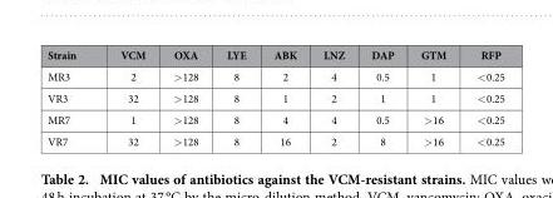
<table><thead><tr><td>Strain</td><td>VCM</td><td>OXA</td><td>LYE</td><td>ABK</td><td>LNZ</td><td>DAP</td><td>GTM</td><td>RFP</td></tr></thead><tbody><tr><td>MR3</td><td>2</td><td>&gt; 128</td><td>8</td><td>2</td><td>4</td><td>0.5</td><td>1</td><td>&lt; 0.25</td></tr><tr><td>VR3</td><td>32</td><td>&gt; 128</td><td>8</td><td>1</td><td>2</td><td>1</td><td>1</td><td>&lt; 0.25</td></tr><tr><td>MR7</td><td>1</td><td>&gt; 128</td><td>8</td><td>4</td><td>4</td><td>0.5</td><td>&gt; 16</td><td>&lt; 0.25</td></tr><tr><td>VR7</td><td>32</td><td>&gt; 128</td><td>8</td><td>16</td><td>2</td><td>8</td><td>&gt; 16</td><td>&lt; 0.25</td></tr></tbody></table>